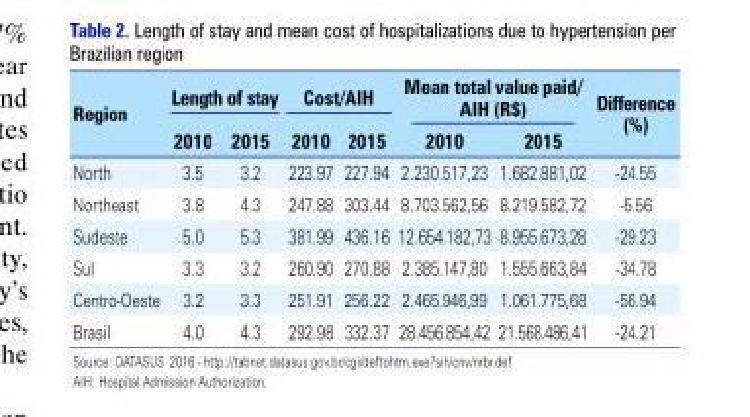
<table><thead><tr><td rowspan="2">Region</td><td colspan="2">Length of stay</td><td colspan="2">Cost/AIH</td><td colspan="2">Mean total value paid/ AIH (R$)</td><td rowspan="2">Difference (%)</td></tr><tr><td>2010</td><td>2015</td><td>2010</td><td>2015</td><td>2010</td><td>2015</td></tr></thead><tbody><tr><td>North</td><td>3.5</td><td>3.2</td><td>223.97</td><td>227.94</td><td>2.230.517,23</td><td>1.682.881,02</td><td>-24.55</td></tr><tr><td>Northeast</td><td>3.8</td><td>4.3</td><td>247.88</td><td>303.44</td><td>8.703.562,56</td><td>8.219.582,72</td><td>-5.56</td></tr><tr><td>Sudeste</td><td>5.0</td><td>5.3</td><td>381.99</td><td>436.16</td><td>12.654.182,73</td><td>8.955.673,28</td><td>-29.23</td></tr><tr><td>Sul</td><td>3.3</td><td>3.2</td><td>260.90</td><td>270.88</td><td>2.385.147,80</td><td>1.555.663,84</td><td>-34.78</td></tr><tr><td>Centro-Oeste</td><td>3.2</td><td>3.3</td><td>251.91</td><td>256.22</td><td>2.465.946,99</td><td>1.061.775,68</td><td>-56.94</td></tr><tr><td>Brasil</td><td>4.0</td><td>4.3</td><td>292.98</td><td>332.37</td><td>28.456.854,42</td><td>21.568.486,41</td><td>-24.21</td></tr></tbody></table>